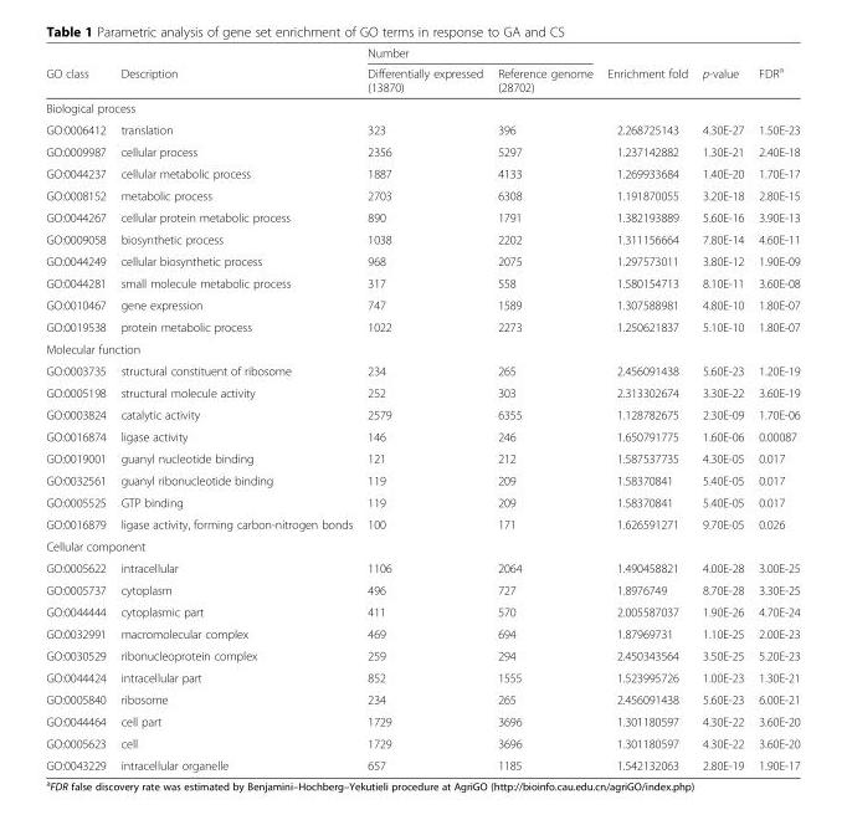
<table><thead><tr><td rowspan="2">GO class</td><td rowspan="2">Description</td><td colspan="2">Number</td><td rowspan="2">Enrichment fold</td><td rowspan="2">p-value</td><td rowspan="2">FDR<sup>a</sup></td></tr><tr><td>Differentially expressed (13870)</td><td>Reference genome (28702)</td></tr></thead><tbody><tr><td colspan="7">Biological process</td></tr><tr><td>GO:0006412</td><td>translation</td><td>323</td><td>396</td><td>2.268725143</td><td>4.30E-27</td><td>1.50E-23</td></tr><tr><td>GO:0009987</td><td>cellular process</td><td>2356</td><td>5297</td><td>1.237142882</td><td>1.30E-21</td><td>2.40E-18</td></tr><tr><td>GO:0044237</td><td>cellular metabolic process</td><td>1887</td><td>4133</td><td>1.269933684</td><td>1.40E-20</td><td>1.70E-17</td></tr><tr><td>GO:0008152</td><td>metabolic process</td><td>2703</td><td>6308</td><td>1.191870055</td><td>3.20E-18</td><td>2.80E-15</td></tr><tr><td>GO:0044267</td><td>cellular protein metabolic process</td><td>890</td><td>1791</td><td>1.382193889</td><td>5.60E-16</td><td>3.90E-13</td></tr><tr><td>GO:0009058</td><td>biosynthetic process</td><td>1038</td><td>2202</td><td>1.311156664</td><td>7.80E-14</td><td>4.60E-11</td></tr><tr><td>GO:0044249</td><td>cellular biosynthetic process</td><td>968</td><td>2075</td><td>1.297573011</td><td>3.80E-12</td><td>1.90E-09</td></tr><tr><td>GO:0044281</td><td>small molecule metabolic process</td><td>317</td><td>558</td><td>1.580154713</td><td>8.10E-11</td><td>3.60E-08</td></tr><tr><td>GO:0010467</td><td>gene expression</td><td>747</td><td>1589</td><td>1.307588981</td><td>4.80E-10</td><td>1.80E-07</td></tr><tr><td>GO:0019538</td><td>protein metabolic process</td><td>1022</td><td>2273</td><td>1.250621837</td><td>5.10E-10</td><td>1.80E-07</td></tr><tr><td colspan="7">Molecular function</td></tr><tr><td>GO:0003735</td><td>structural constituent of ribosome</td><td>234</td><td>265</td><td>2.456091438</td><td>5.60E-23</td><td>1.20E-19</td></tr><tr><td>GO:0005198</td><td>structural molecule activity</td><td>252</td><td>303</td><td>2.313302674</td><td>3.30E-22</td><td>3.60E-19</td></tr><tr><td>GO:0003824</td><td>catalytic activity</td><td>2579</td><td>6355</td><td>1.128782675</td><td>2.30E-09</td><td>1.70E-06</td></tr><tr><td>GO:0016874</td><td>ligase activity</td><td>146</td><td>246</td><td>1.650791775</td><td>1.60E-06</td><td>0.00087</td></tr><tr><td>GO:0019001</td><td>guanyl nucleotide binding</td><td>121</td><td>212</td><td>1.587537735</td><td>4.30E-05</td><td>0.017</td></tr><tr><td>GO:0032561</td><td>guanyl ribonucleotide binding</td><td>119</td><td>209</td><td>1.58370841</td><td>5.40E-05</td><td>0.017</td></tr><tr><td>GO:0005525</td><td>GTP binding</td><td>119</td><td>209</td><td>1.58370841</td><td>5.40E-05</td><td>0.017</td></tr><tr><td>GO:0016879</td><td>ligase activity, forming carbon-nitrogen bonds</td><td>100</td><td>171</td><td>1.626591271</td><td>9.70E-05</td><td>0.026</td></tr><tr><td colspan="7">Cellular component</td></tr><tr><td>GO:0005622</td><td>intracellular</td><td>1106</td><td>2064</td><td>1.490458821</td><td>4.00E-28</td><td>3.00E-25</td></tr><tr><td>GO:0005737</td><td>cytoplasm</td><td>496</td><td>727</td><td>1.8976749</td><td>8.70E-28</td><td>3.30E-25</td></tr><tr><td>GO:0044444</td><td>cytoplasmic part</td><td>411</td><td>570</td><td>2.005587037</td><td>1.90E-26</td><td>4.70E-24</td></tr><tr><td>GO:0032991</td><td>macromolecular complex</td><td>469</td><td>694</td><td>1.87969731</td><td>1.10E-25</td><td>2.00E-23</td></tr><tr><td>GO:0030529</td><td>ribonucleoprotein complex</td><td>259</td><td>294</td><td>2.450343564</td><td>3.50E-25</td><td>5.20E-23</td></tr><tr><td>GO:0044424</td><td>intracellular part</td><td>852</td><td>1555</td><td>1.523995726</td><td>1.00E-23</td><td>1.30E-21</td></tr><tr><td>GO:0005840</td><td>ribosome</td><td>234</td><td>265</td><td>2.456091438</td><td>5.60E-23</td><td>6.00E-21</td></tr><tr><td>GO:0044464</td><td>cell part</td><td>1729</td><td>3696</td><td>1.301180597</td><td>4.30E-22</td><td>3.60E-20</td></tr><tr><td>GO:0005623</td><td>cell</td><td>1729</td><td>3696</td><td>1.301180597</td><td>4.30E-22</td><td>3.60E-20</td></tr><tr><td>GO:0043229</td><td>intracellular organelle</td><td>657</td><td>1185</td><td>1.542132063</td><td>2.80E-19</td><td>1.90E-17</td></tr></tbody></table>